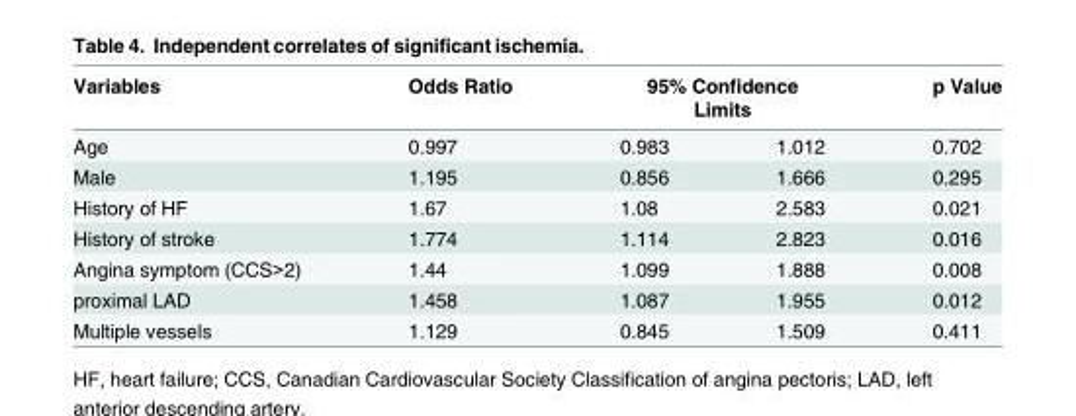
<table><thead><tr><td rowspan="2">Variables Age</td><td rowspan="2">Odds Ratio 0.997</td><td colspan="2">95% Confidence Limits</td><td rowspan="2">p Value 0.702</td></tr><tr><td>0.983</td><td>1.012</td></tr></thead><tbody><tr><td>Male</td><td>1.195</td><td>0.856</td><td>1.666</td><td>0.295</td></tr><tr><td>History of HF</td><td>1.67</td><td>1.08</td><td>2.583</td><td>0.021</td></tr><tr><td>History of stroke</td><td>1.774</td><td>1.114</td><td>2.823</td><td>0.016</td></tr><tr><td>Angina symptom (CCS&gt;2)</td><td>1.44</td><td>1.099</td><td>1.888</td><td>0.008</td></tr><tr><td>proximal LAD</td><td>1.458</td><td>1.087</td><td>1.955</td><td>0.012</td></tr><tr><td>Multiple vessels</td><td>1.129</td><td>0.845</td><td>1.509</td><td>0.411</td></tr></tbody></table>